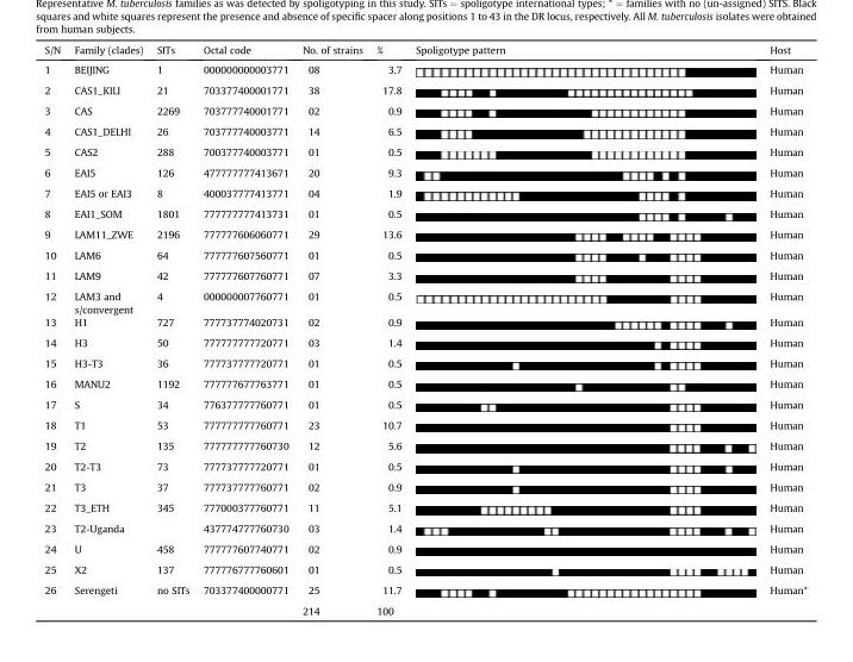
<table><thead><tr><td>S/N</td><td>Family (clades)</td><td>SITs</td><td>Octal code</td><td>No. of strains</td><td>%</td><td>Spoligotype pattern</td><td>Host</td></tr></thead><tbody><tr><td>1</td><td>BEIJING</td><td>1</td><td>000000000003771</td><td>08</td><td>3.7</td><td></td><td>Human</td></tr><tr><td>2</td><td>CAS1_KILI</td><td>21</td><td>703377400001771</td><td>38</td><td>17.8</td><td></td><td>Human</td></tr><tr><td>3</td><td>CAS</td><td>2269</td><td>703777740001771</td><td>02</td><td>0.9</td><td></td><td>Human</td></tr><tr><td>4</td><td>CAS1_DELHI</td><td>26</td><td>703777740003771</td><td>14</td><td>6.5</td><td></td><td>Human</td></tr><tr><td>5</td><td>CAS2</td><td>288</td><td>700377740003771</td><td>01</td><td>0.5</td><td></td><td>Human</td></tr><tr><td>6</td><td>EAI5</td><td>126</td><td>477777777413671</td><td>20</td><td>9.3</td><td></td><td>Human</td></tr><tr><td>7</td><td>EAI5 or EAI3</td><td>8</td><td>400037777413771</td><td>04</td><td>1.9</td><td></td><td>Human</td></tr><tr><td>8</td><td>EAI1_SOM</td><td>1801</td><td>777777777413731</td><td>01</td><td>0.5</td><td></td><td>Human</td></tr><tr><td>9</td><td>LAM11_ZWE</td><td>2196</td><td>777777606060771</td><td>29</td><td>13.6</td><td></td><td>Human</td></tr><tr><td>10</td><td>LAM6</td><td>64</td><td>777777607560771</td><td>01</td><td>0.5</td><td></td><td>Human</td></tr><tr><td>11</td><td>LAM9</td><td>42</td><td>777777607760771</td><td>07</td><td>3.3</td><td></td><td>Human</td></tr><tr><td>12</td><td>LAM3 and s/convergent</td><td>4</td><td>000000007760771</td><td>01</td><td>0.5</td><td></td><td>Human</td></tr><tr><td>13</td><td>H1</td><td>727</td><td>777737774020731</td><td>02</td><td>0.9</td><td></td><td>Human</td></tr><tr><td>14</td><td>H3</td><td>50</td><td>777777777720771</td><td>03</td><td>1.4</td><td></td><td>Human</td></tr><tr><td>15</td><td>H3-T3</td><td>36</td><td>777737777720771</td><td>01</td><td>0.5</td><td></td><td>Human</td></tr><tr><td>16</td><td>MANU2</td><td>1192</td><td>777777677763771</td><td>01</td><td>0.5</td><td></td><td>Human</td></tr><tr><td>17</td><td>S</td><td>34</td><td>776377777760771</td><td>01</td><td>0.5</td><td></td><td>Human</td></tr><tr><td>18</td><td>T1</td><td>53</td><td>777777777760771</td><td>23</td><td>10.7</td><td></td><td>Human</td></tr><tr><td>19</td><td>T2</td><td>135</td><td>777777777760730</td><td>12</td><td>5.6</td><td></td><td>Human</td></tr><tr><td>20</td><td>T2-T3</td><td>73</td><td>777737777720771</td><td>01</td><td>0.5</td><td></td><td>Human</td></tr><tr><td>21</td><td>T3</td><td>37</td><td>777737777760771</td><td>02</td><td>0.9</td><td></td><td>Human</td></tr><tr><td>22</td><td>T3_ETH</td><td>345</td><td>777000377760771</td><td>11</td><td>5.1</td><td></td><td>Human</td></tr><tr><td>23</td><td>T2-Uganda</td><td></td><td>437774777760730</td><td>03</td><td>1.4</td><td></td><td>Human</td></tr><tr><td>24</td><td>U</td><td>458</td><td>777777607740771</td><td>02</td><td>0.9</td><td></td><td>Human</td></tr><tr><td>25</td><td>X2</td><td>137</td><td>777776777760601</td><td>01</td><td>0.5</td><td></td><td>Human</td></tr><tr><td rowspan="2">26</td><td rowspan="2">Serengeti</td><td rowspan="2">no SITs</td><td rowspan="2">703377400000771</td><td>25</td><td>11.7</td><td></td><td>Human*</td></tr><tr><td>214</td><td>100</td><td></td><td></td></tr></tbody></table>